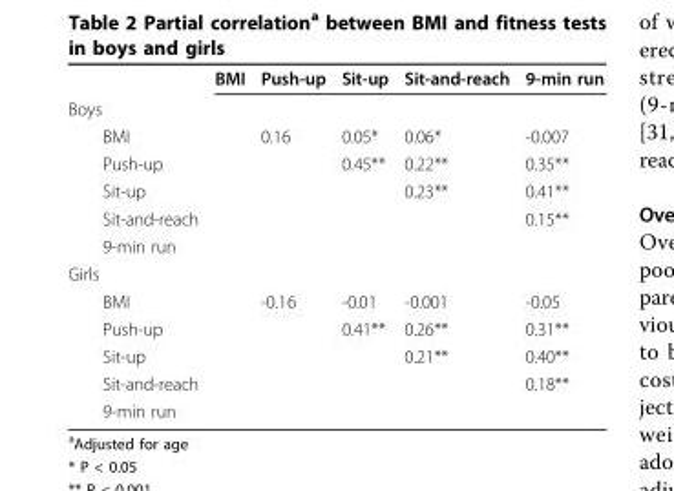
<table><thead><tr><td></td><td>BMI</td><td>Push-up</td><td>Sit-up</td><td>Sit-and-reach</td><td>9-min run</td></tr></thead><tbody><tr><td colspan="6">Boys</td></tr><tr><td>BMI</td><td></td><td>0.16</td><td>0.05*</td><td>0.06*</td><td>-0.007</td></tr><tr><td>Push-up</td><td></td><td></td><td>0.45**</td><td>0.22**</td><td>0.35**</td></tr><tr><td>Sit-up</td><td></td><td></td><td></td><td>0.23**</td><td>0.41**</td></tr><tr><td>Sit-and-reach</td><td></td><td></td><td></td><td></td><td>0.15**</td></tr><tr><td colspan="6">9-min run</td></tr><tr><td colspan="6">Girls</td></tr><tr><td>BMI</td><td></td><td>-0.16</td><td>-0.01</td><td>-0.001</td><td>-0.05</td></tr><tr><td>Push-up</td><td></td><td></td><td>0.41**</td><td>0.26**</td><td>0.31**</td></tr><tr><td>Sit-up</td><td></td><td></td><td></td><td>0.21**</td><td>0.40**</td></tr><tr><td>Sit-and-reach</td><td></td><td></td><td></td><td></td><td>0.18**</td></tr><tr><td>9-min run</td><td></td><td></td><td></td><td></td><td></td></tr></tbody></table>